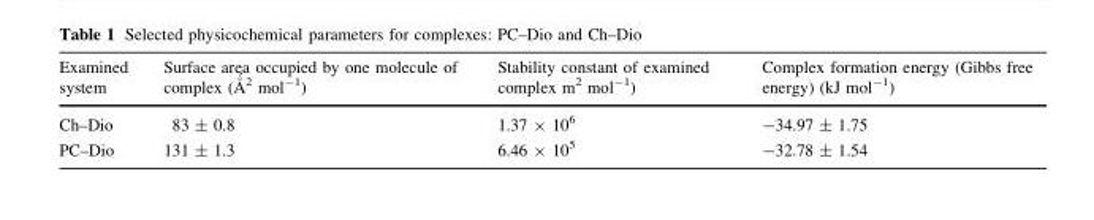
<table><thead><tr><td>Examined system</td><td>Surface area occupied by one molecule of complex (A˚´ 2 mol-1)</td><td>Stability constant of examined complex m<sup>2</sup> mol<sup>-1</sup>)</td><td>Complex formation energy (Gibbs free energy) (kJ mol<sup>-1</sup>)</td></tr></thead><tbody><tr><td>Ch–Dio</td><td>83 ± 0.8</td><td>1.37 × 10<sup>6</sup></td><td>-34.97 ± 1.75</td></tr><tr><td>PC–Dio</td><td>131 ± 1.3</td><td>6.46 × 10<sup>5</sup></td><td>-32.78 ± 1.54</td></tr></tbody></table>